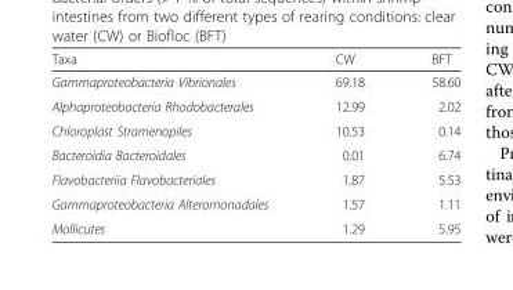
<table><thead><tr><td>Taxa</td><td>CW</td><td>BFT</td></tr></thead><tbody><tr><td>Gammaproteobacteria Vibrionales</td><td>69.18</td><td>58.60</td></tr><tr><td>Alphaproteobacteria Rhodobacterales</td><td>12.99</td><td>2.02</td></tr><tr><td>Chloroplast Stramenopiles</td><td>10.53</td><td>0.14</td></tr><tr><td>Bacteroidia Bacteroidales</td><td>0.01</td><td>6.74</td></tr><tr><td>Flavobacteriia Flavobacteriales</td><td>1.87</td><td>5.53</td></tr><tr><td>Gammaproteobacteria Alteromonadales</td><td>1.57</td><td>1.11</td></tr><tr><td>Mollicutes</td><td>1.29</td><td>5.95</td></tr></tbody></table>